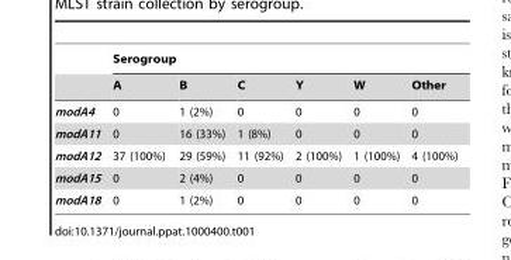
<table><thead><tr><td rowspan="2"></td><td colspan="6">Serogroup</td></tr><tr><td>A</td><td>B</td><td>C</td><td>Y</td><td>W</td><td>Other</td></tr></thead><tbody><tr><td>modA4</td><td>0</td><td>1 (2%)</td><td>0</td><td>0</td><td>0</td><td>0</td></tr><tr><td>modA11</td><td>0</td><td>16 (33%)</td><td>1 (8%)</td><td>0</td><td>0</td><td>0</td></tr><tr><td>modA12</td><td>37 (100%)</td><td>29 (59%)</td><td>11 (92%)</td><td>2 (100%)</td><td>1 (100%)</td><td>4 (100%)</td></tr><tr><td>modA15</td><td>0</td><td>2 (4%)</td><td>0</td><td>0</td><td>0</td><td>0</td></tr><tr><td>modA18</td><td>0</td><td>1 (2%)</td><td>0</td><td>0</td><td>0</td><td>0</td></tr></tbody></table>